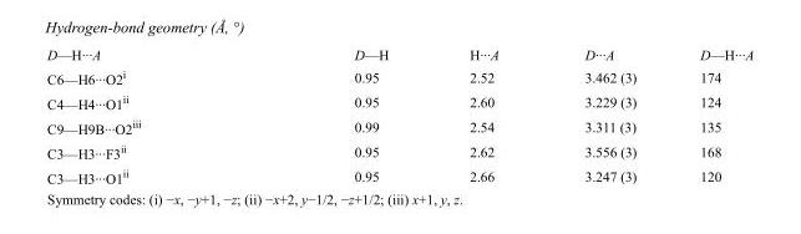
<table><tbody><tr><td>D—H···A</td><td>D—H</td><td>H···A</td><td>D···A</td><td>D—H···A</td></tr><tr><td>C6—H6···O2<sup>i</sup></td><td>0.95</td><td>2.52</td><td>3.462 (3)</td><td>174</td></tr><tr><td>C4—H4···O1<sup>ii</sup></td><td>0.95</td><td>2.60</td><td>3.229 (3)</td><td>124</td></tr><tr><td>C9—H9B···O2<sup>iii</sup></td><td>0.99</td><td>2.54</td><td>3.311 (3)</td><td>135</td></tr><tr><td>C3—H3···F3<sup>ii</sup></td><td>0.95</td><td>2.62</td><td>3.556 (3)</td><td>168</td></tr><tr><td>C3—H3···O1<sup>ii</sup></td><td>0.95</td><td>2.66</td><td>3.247 (3)</td><td>120</td></tr></tbody></table>